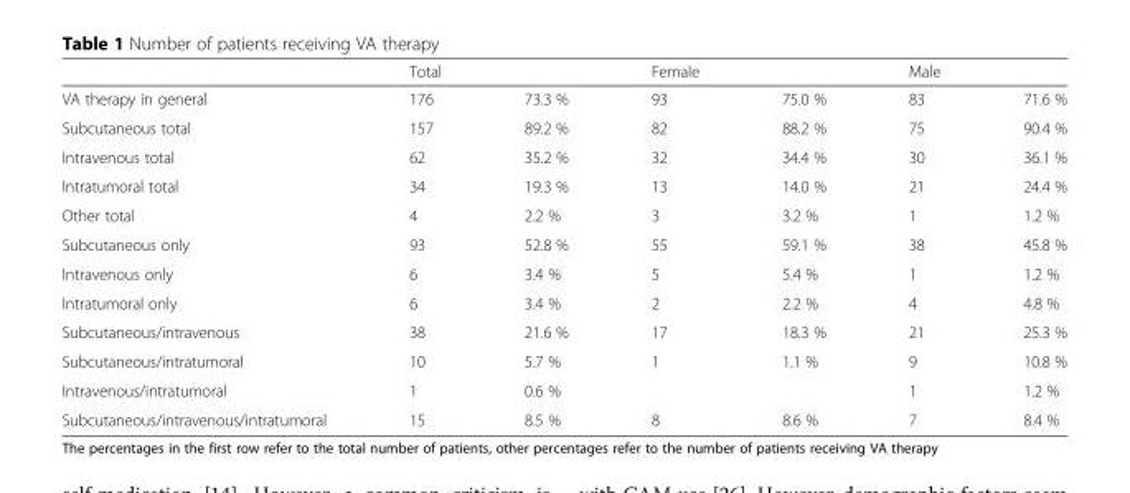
<table><thead><tr><td></td><td>Total</td><td></td><td>Female</td><td></td><td>Male</td><td></td></tr></thead><tbody><tr><td>VA therapy in general</td><td>176</td><td>73.3 %</td><td>93</td><td>75.0 %</td><td>83</td><td>71.6 %</td></tr><tr><td>Subcutaneous total</td><td>157</td><td>89.2 %</td><td>82</td><td>88.2 %</td><td>75</td><td>90.4 %</td></tr><tr><td>Intravenous total</td><td>62</td><td>35.2 %</td><td>32</td><td>34.4 %</td><td>30</td><td>36.1 %</td></tr><tr><td>Intratumoral total</td><td>34</td><td>19.3 %</td><td>13</td><td>14.0 %</td><td>21</td><td>24.4 %</td></tr><tr><td>Other total</td><td>4</td><td>2.2 %</td><td>3</td><td>3.2 %</td><td>1</td><td>1.2 %</td></tr><tr><td>Subcutaneous only</td><td>93</td><td>52.8 %</td><td>55</td><td>59.1 %</td><td>38</td><td>45.8 %</td></tr><tr><td>Intravenous only</td><td>6</td><td>3.4 %</td><td>5</td><td>5.4 %</td><td>1</td><td>1.2 %</td></tr><tr><td>Intratumoral only</td><td>6</td><td>3.4 %</td><td>2</td><td>2.2 %</td><td>4</td><td>4.8 %</td></tr><tr><td>Subcutaneous/intravenous</td><td>38</td><td>21.6 %</td><td>17</td><td>18.3 %</td><td>21</td><td>25.3 %</td></tr><tr><td>Subcutaneous/intratumoral</td><td>10</td><td>5.7 %</td><td>1</td><td>1.1 %</td><td>9</td><td>10.8 %</td></tr><tr><td>Intravenous/intratumoral</td><td>1</td><td>0.6 %</td><td></td><td></td><td>1</td><td>1.2 %</td></tr><tr><td>Subcutaneous/intravenous/intratumoral</td><td>15</td><td>8.5 %</td><td>8</td><td>8.6 %</td><td>7</td><td>8.4 %</td></tr></tbody></table>